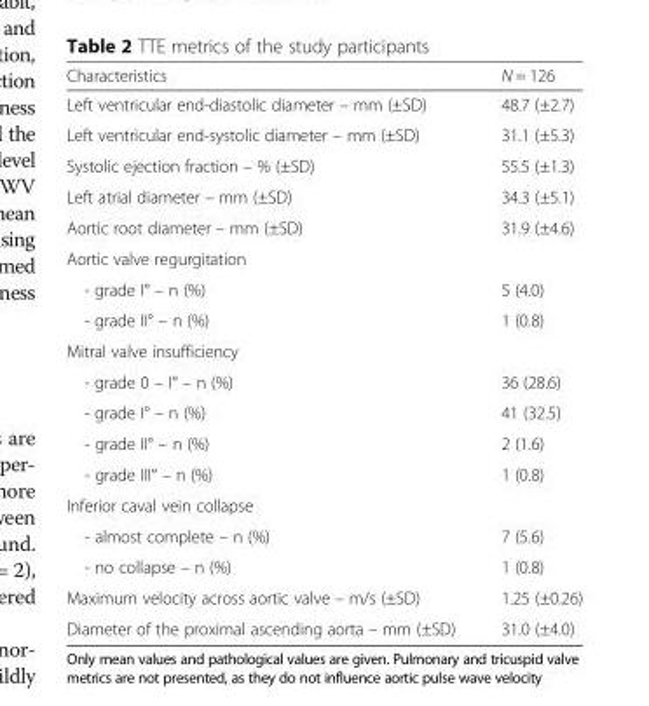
<table><thead><tr><td>Characteristics</td><td>N = 126</td></tr></thead><tbody><tr><td>Left ventricular end-diastolic diameter – mm (±SD)</td><td>48.7 (±2.7)</td></tr><tr><td>Left ventricular end-systolic diameter – mm (±SD)</td><td>31.1 (±5.3)</td></tr><tr><td>Systolic ejection fraction – % (±SD)</td><td>55.5 (±1.3)</td></tr><tr><td>Left atrial diameter – mm (±SD)</td><td>34.3 (±5.1)</td></tr><tr><td>Aortic root diameter – mm (±SD)</td><td>31.9 (±4.6)</td></tr><tr><td colspan="2">Aortic valve regurgitation</td></tr><tr><td>- grade I° – n (%)</td><td>5 (4.0)</td></tr><tr><td>- grade II° – n (%)</td><td>1 (0.8)</td></tr><tr><td colspan="2">Mitral valve insufficiency</td></tr><tr><td>- grade 0 – I° – n (%)</td><td>36 (28.6)</td></tr><tr><td>- grade I° – n (%)</td><td>41 (32.5)</td></tr><tr><td>- grade II° – n (%)</td><td>2 (1.6)</td></tr><tr><td>- grade III° – n (%)</td><td>1 (0.8)</td></tr><tr><td colspan="2">Inferior caval vein collapse</td></tr><tr><td>- almost complete – n (%)</td><td>7 (5.6)</td></tr><tr><td>- no collapse – n (%)</td><td>1 (0.8)</td></tr><tr><td>Maximum velocity across aortic valve – m/s (±SD)</td><td>1.25 (±0.26)</td></tr><tr><td>Diameter of the proximal ascending aorta – mm (±SD)</td><td>31.0 (±4.0)</td></tr></tbody></table>